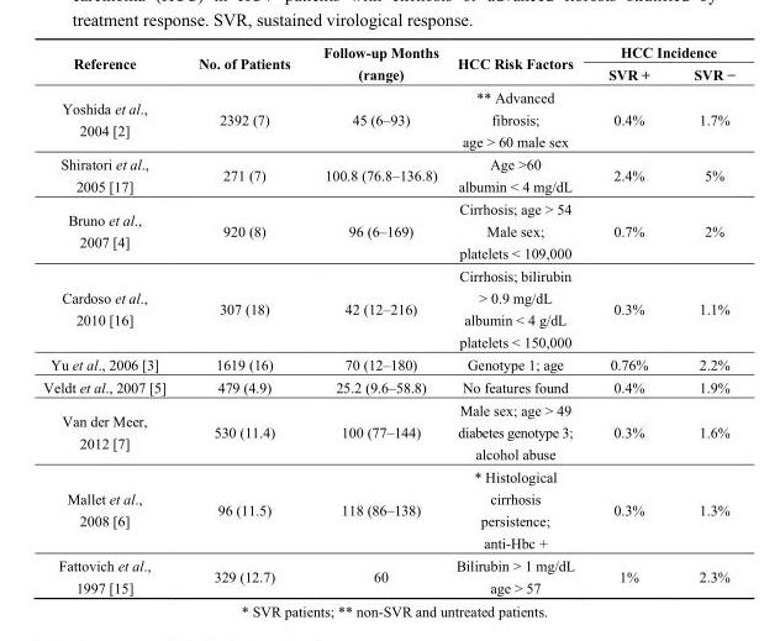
<table><thead><tr><td rowspan="2">Reference</td><td rowspan="2">No. of Patients</td><td rowspan="2">Follow-up Months (range)</td><td rowspan="2">HCC Risk Factors</td><td colspan="2">HCC Incidence</td></tr><tr><td>SVR +</td><td>SVR −</td></tr></thead><tbody><tr><td>Yoshida et al., 2004 [2]</td><td>2392 (7)</td><td>45 (6–93)</td><td>** Advanced fibrosis; age &gt; 60 male sex</td><td>0.4%</td><td>1.7%</td></tr><tr><td>Shiratori et al., 2005 [17]</td><td>271 (7)</td><td>100.8 (76.8–136.8)</td><td>Age &gt;60 albumin &lt; 4 mg/dL</td><td>2.4%</td><td>5%</td></tr><tr><td>Bruno et al., 2007 [4]</td><td>920 (8)</td><td>96 (6–169)</td><td>Cirrhosis; age &gt; 54 Male sex; platelets &lt; 109,000</td><td>0.7%</td><td>2%</td></tr><tr><td>Cardoso et al., 2010 [16]</td><td>307 (18)</td><td>42 (12–216)</td><td>Cirrhosis; bilirubin &gt; 0.9 mg/dL albumin &lt; 4 g/dL platelets &lt; 150,000</td><td>0.3%</td><td>1.1%</td></tr><tr><td>Yu et al., 2006 [3]</td><td>1619 (16)</td><td>70 (12–180)</td><td>Genotype 1; age</td><td>0.76%</td><td>2.2%</td></tr><tr><td>Veldt et al., 2007 [5]</td><td>479 (4.9)</td><td>25.2 (9.6–58.8)</td><td>No features found</td><td>0.4%</td><td>1.9%</td></tr><tr><td>Van der Meer, 2012 [7]</td><td>530 (11.4)</td><td>100 (77–144)</td><td>Male sex; age &gt; 49 diabetes genotype 3; alcohol abuse</td><td>0.3%</td><td>1.6%</td></tr><tr><td>Mallet et al., 2008 [6]</td><td>96 (11.5)</td><td>118 (86–138)</td><td>* Histological cirrhosis persistence; anti-Hbc +</td><td>0.3%</td><td>1.3%</td></tr><tr><td>Fattovich et al., 1997 [15]</td><td>329 (12.7)</td><td>60</td><td>Bilirubin &gt; 1 mg/dL age &gt; 57</td><td>1%</td><td>2.3%</td></tr></tbody></table>